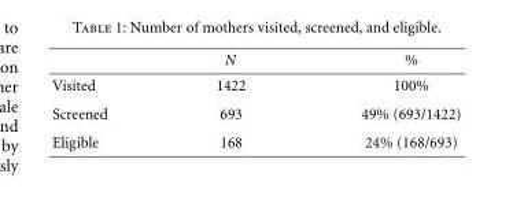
<table><thead><tr><td></td><td>N</td><td>%</td></tr></thead><tbody><tr><td>Visited</td><td>1422</td><td>100%</td></tr><tr><td>Screened</td><td>693</td><td>49% (693/1422)</td></tr><tr><td>Eligible</td><td>168</td><td>24% (168/693)</td></tr></tbody></table>